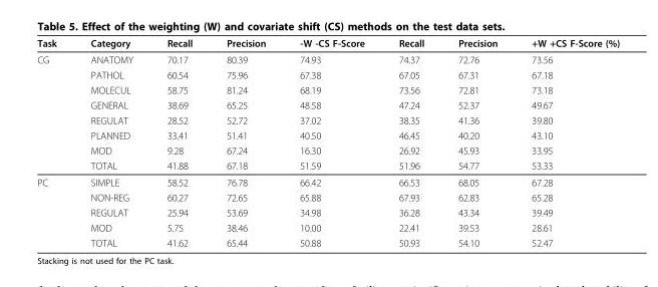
<table><thead><tr><td>Task</td><td>Category</td><td>Recall</td><td>Precision</td><td>-W -CS F-Score</td><td>Recall</td><td>Precision</td><td>+W +CS F-Score (%)</td></tr></thead><tbody><tr><td rowspan="8">CG</td><td>ANATOMY</td><td>70.17</td><td>80.39</td><td>74.93</td><td>74.37</td><td>72.76</td><td>73.56</td></tr><tr><td>PATHOL</td><td>60.54</td><td>75.96</td><td>67.38</td><td>67.05</td><td>67.31</td><td>67.18</td></tr><tr><td>MOLECUL</td><td>58.75</td><td>81.24</td><td>68.19</td><td>73.56</td><td>72.81</td><td>73.18</td></tr><tr><td>GENERAL</td><td>38.69</td><td>65.25</td><td>48.58</td><td>47.24</td><td>52.37</td><td>49.67</td></tr><tr><td>REGULAT</td><td>28.52</td><td>52.72</td><td>37.02</td><td>38.35</td><td>41.36</td><td>39.80</td></tr><tr><td>PLANNED</td><td>33.41</td><td>51.41</td><td>40.50</td><td>46.45</td><td>40.20</td><td>43.10</td></tr><tr><td>MOD</td><td>9.28</td><td>67.24</td><td>16.30</td><td>26.92</td><td>45.93</td><td>33.95</td></tr><tr><td>TOTAL</td><td>41.88</td><td>67.18</td><td>51.59</td><td>51.96</td><td>54.77</td><td>53.33</td></tr><tr><td rowspan="5">PC</td><td>SIMPLE</td><td>58.52</td><td>76.78</td><td>66.42</td><td>66.53</td><td>68.05</td><td>67.28</td></tr><tr><td>NON-REG</td><td>60.27</td><td>72.65</td><td>65.88</td><td>67.93</td><td>62.83</td><td>65.28</td></tr><tr><td>REGULAT</td><td>25.94</td><td>53.69</td><td>34.98</td><td>36.28</td><td>43.34</td><td>39.49</td></tr><tr><td>MOD</td><td>5.75</td><td>38.46</td><td>10.00</td><td>22.41</td><td>39.53</td><td>28.61</td></tr><tr><td>TOTAL</td><td>41.62</td><td>65.44</td><td>50.88</td><td>50.93</td><td>54.10</td><td>52.47</td></tr></tbody></table>